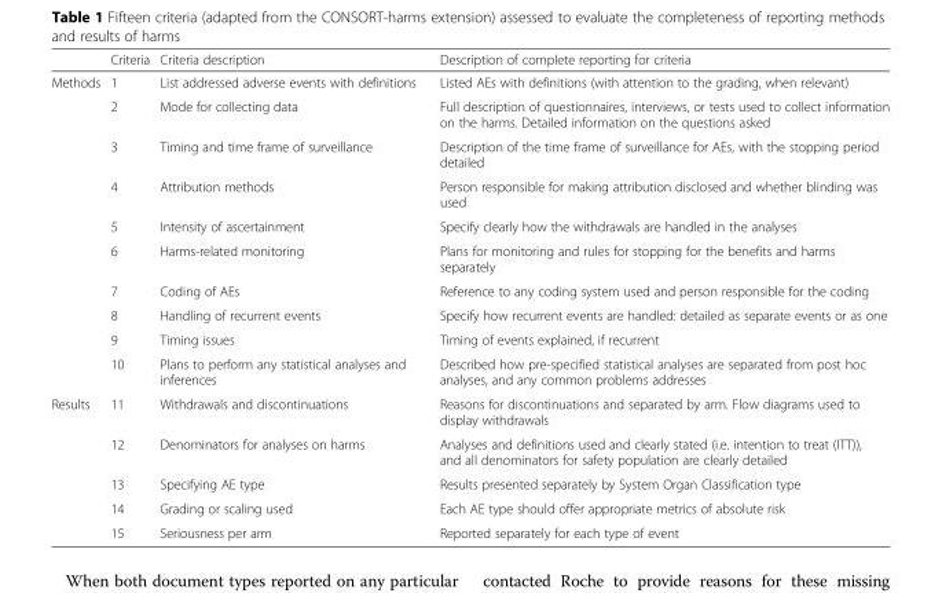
<table><thead><tr><td></td><td>Criteria</td><td>Criteria description</td><td>Description of complete reporting for criteria</td></tr></thead><tbody><tr><td rowspan="10">Methods</td><td>1</td><td>List addressed adverse events with definitions</td><td>Listed AEs with definitions (with attention to the grading, when relevant)</td></tr><tr><td>2</td><td>Mode for collecting data</td><td>Full description of questionnaires, interviews, or tests used to collect information on the harms. Detailed information on the questions asked</td></tr><tr><td>3</td><td>Timing and time frame of surveillance</td><td>Description of the time frame of surveillance for AEs, with the stopping period detailed</td></tr><tr><td>4</td><td>Attribution methods</td><td>Person responsible for making attribution disclosed and whether blinding was used</td></tr><tr><td>5</td><td>Intensity of ascertainment</td><td>Specify clearly how the withdrawals are handled in the analyses</td></tr><tr><td>6</td><td>Harms-related monitoring</td><td>Plans for monitoring and rules for stopping for the benefits and harms separately</td></tr><tr><td>7</td><td>Coding of AEs</td><td>Reference to any coding system used and person responsible for the coding</td></tr><tr><td>8</td><td>Handling of recurrent events</td><td>Specify how recurrent events are handled: detailed as separate events or as one</td></tr><tr><td>9</td><td>Timing issues</td><td>Timing of events explained, if recurrent</td></tr><tr><td>10</td><td>Plans to perform any statistical analyses and inferences</td><td>Described how pre-specified statistical analyses are separated from post hoc analyses, and any common problems addresses</td></tr><tr><td rowspan="5">Results</td><td>11</td><td>Withdrawals and discontinuations</td><td>Reasons for discontinuations and separated by arm. Flow diagrams used to display withdrawals</td></tr><tr><td>12</td><td>Denominators for analyses on harms</td><td>Analyses and definitions used and clearly stated (i.e. intention to treat (ITT)), and all denominators for safety population are clearly detailed</td></tr><tr><td>13</td><td>Specifying AE type</td><td>Results presented separately by System Organ Classification type</td></tr><tr><td>14</td><td>Grading or scaling used</td><td>Each AE type should offer appropriate metrics of absolute risk</td></tr><tr><td>15</td><td>Seriousness per arm</td><td>Reported separately for each type of event</td></tr></tbody></table>